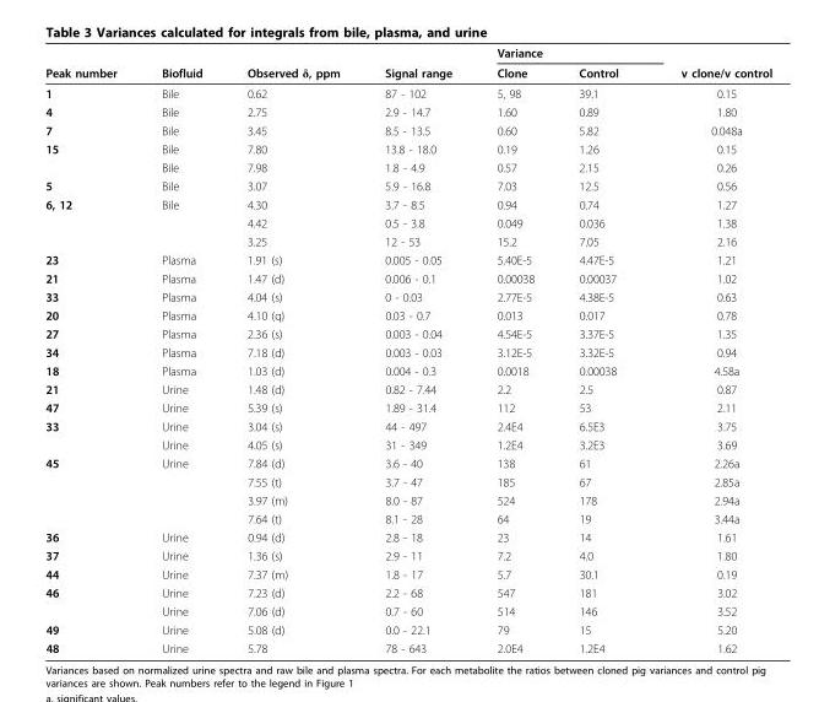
<table><thead><tr><td rowspan="2">Peak number</td><td rowspan="2">Biofluid</td><td rowspan="2">Observed δ, ppm</td><td rowspan="2">Signal range</td><td colspan="2">Variance</td><td rowspan="2">v clone/v control</td></tr><tr><td>Clone</td><td>Control</td></tr></thead><tbody><tr><td>1</td><td>Bile</td><td>0.62</td><td>87 - 102</td><td>5, 98</td><td>39.1</td><td>0.15</td></tr><tr><td>4</td><td>Bile</td><td>2.75</td><td>2.9 - 14.7</td><td>1.60</td><td>0.89</td><td>1.80</td></tr><tr><td>7</td><td>Bile</td><td>3.45</td><td>8.5 - 13.5</td><td>0.60</td><td>5.82</td><td>0.048a</td></tr><tr><td rowspan="2">15</td><td>Bile</td><td>7.80</td><td>13.8 - 18.0</td><td>0.19</td><td>1.26</td><td>0.15</td></tr><tr><td>Bile</td><td>7.98</td><td>1.8 - 4.9</td><td>0.57</td><td>2.15</td><td>0.26</td></tr><tr><td>5</td><td>Bile</td><td>3.07</td><td>5.9 - 16.8</td><td>7.03</td><td>12.5</td><td>0.56</td></tr><tr><td rowspan="3">6, 12</td><td>Bile</td><td>4.30</td><td>3.7 - 8.5</td><td>0.94</td><td>0.74</td><td>1.27</td></tr><tr><td></td><td>4.42</td><td>0.5 - 3.8</td><td>0.049</td><td>0.036</td><td>1.38</td></tr><tr><td></td><td>3.25</td><td>12 - 53</td><td>15.2</td><td>7.05</td><td>2.16</td></tr><tr><td>23</td><td>Plasma</td><td>1.91 (s)</td><td>0.005 - 0.05</td><td>5.40E-5</td><td>4.47E-5</td><td>1.21</td></tr><tr><td>21</td><td>Plasma</td><td>1.47 (d)</td><td>0.006 - 0.1</td><td>0.00038</td><td>0.00037</td><td>1.02</td></tr><tr><td>33</td><td>Plasma</td><td>4.04 (s)</td><td>0 - 0.03</td><td>2.77E-5</td><td>4.38E-5</td><td>0.63</td></tr><tr><td>20</td><td>Plasma</td><td>4.10 (q)</td><td>0.03 - 0.7</td><td>0.013</td><td>0.017</td><td>0.78</td></tr><tr><td>27</td><td>Plasma</td><td>2.36 (s)</td><td>0.003 - 0.04</td><td>4.54E-5</td><td>3.37E-5</td><td>1.35</td></tr><tr><td>34</td><td>Plasma</td><td>7.18 (d)</td><td>0.003 - 0.03</td><td>3.12E-5</td><td>3.32E-5</td><td>0.94</td></tr><tr><td>18</td><td>Plasma</td><td>1.03 (d)</td><td>0.004 - 0.3</td><td>0.0018</td><td>0.00038</td><td>4.58a</td></tr><tr><td>21</td><td>Urine</td><td>1.48 (d)</td><td>0.82 - 7.44</td><td>2.2</td><td>2.5</td><td>0.87</td></tr><tr><td>47</td><td>Urine</td><td>5.39 (s)</td><td>1.89 - 31.4</td><td>112</td><td>53</td><td>2.11</td></tr><tr><td rowspan="2">33</td><td>Urine</td><td>3.04 (s)</td><td>44 - 497</td><td>2.4E4</td><td>6.5E3</td><td>3.75</td></tr><tr><td>Urine</td><td>4.05 (s)</td><td>31 - 349</td><td>1.2E4</td><td>3.2E3</td><td>3.69</td></tr><tr><td rowspan="4">45</td><td>Urine</td><td>7.84 (d)</td><td>3.6 - 40</td><td>138</td><td>61</td><td>2.26a</td></tr><tr><td></td><td>7.55 (t)</td><td>3.7 - 47</td><td>185</td><td>67</td><td>2.85a</td></tr><tr><td></td><td>3.97 (m)</td><td>8.0 - 87</td><td>524</td><td>178</td><td>2.94a</td></tr><tr><td></td><td>7.64 (t)</td><td>8.1 - 28</td><td>64</td><td>19</td><td>3.44a</td></tr><tr><td>36</td><td>Urine</td><td>0.94 (d)</td><td>2.8 - 18</td><td>23</td><td>14</td><td>1.61</td></tr><tr><td>37</td><td>Urine</td><td>1.36 (s)</td><td>2.9 - 11</td><td>7.2</td><td>4.0</td><td>1.80</td></tr><tr><td>44</td><td>Urine</td><td>7.37 (m)</td><td>1.8 - 17</td><td>5.7</td><td>30.1</td><td>0.19</td></tr><tr><td rowspan="2">46</td><td>Urine</td><td>7.23 (d)</td><td>2.2 - 68</td><td>547</td><td>181</td><td>3.02</td></tr><tr><td>Urine</td><td>7.06 (d)</td><td>0.7 - 60</td><td>514</td><td>146</td><td>3.52</td></tr><tr><td>49</td><td>Urine</td><td>5.08 (d)</td><td>0.0 - 22.1</td><td>79</td><td>15</td><td>5.20</td></tr><tr><td>48</td><td>Urine</td><td>5.78</td><td>78 - 643</td><td>2.0E4</td><td>1.2E4</td><td>1.62</td></tr></tbody></table>